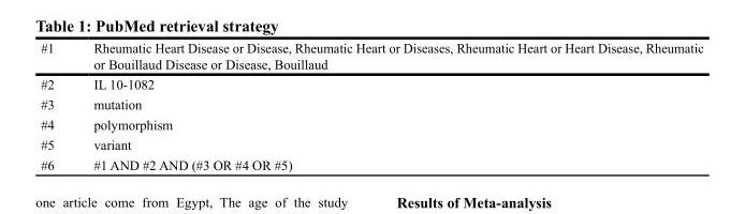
<table><thead><tr><td>#1</td><td>Rheumatic Heart Disease or Disease, Rheumatic Heart or Diseases, Rheumatic Heart or Heart Disease, Rheumatic or Bouillaud Disease or Disease, Bouillaud</td></tr></thead><tbody><tr><td>#2</td><td>IL 10-1082</td></tr><tr><td>#3</td><td>mutation</td></tr><tr><td>#4</td><td>polymorphism</td></tr><tr><td>#5</td><td>variant</td></tr><tr><td>#6</td><td>#1 AND #2 AND (#3 OR #4 OR #5)</td></tr></tbody></table>